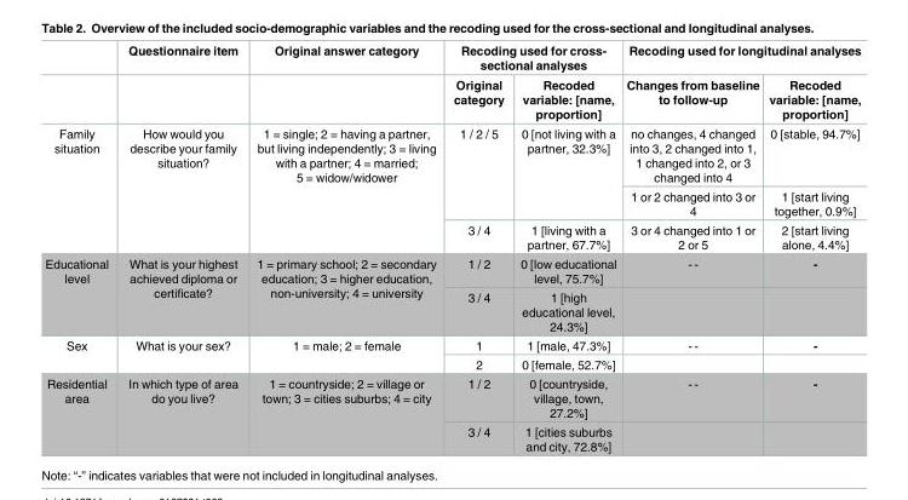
<table><thead><tr><td rowspan="2"></td><td rowspan="2">Questionnaire item</td><td rowspan="2">Original answer category</td><td colspan="2">Recoding used for cross- sectional analyses</td><td colspan="2">Recoding used for longitudinal analyses</td></tr><tr><td>Original category</td><td>Recoded variable: [name, proportion]</td><td>Changes from baseline to follow-up</td><td>Recoded variable: [name, proportion]</td></tr></thead><tbody><tr><td rowspan="3">Family situation</td><td rowspan="3">How would you describe your family situation?</td><td rowspan="3">1 = single; 2 = having a partner, but living independently; 3 = living with a partner; 4 = married; 5 = widow/widower</td><td rowspan="2">1 / 2 / 5</td><td rowspan="2">0 [not living with a partner, 32.3%]</td><td>no changes, 4 changed into 3, 2 changed into 1, 1 changed into 2, or 3 changed into 4</td><td>0 [stable, 94.7%]</td></tr><tr><td>1 or 2 changed into 3 or 4</td><td>1 [start living together, 0.9%]</td></tr><tr><td>3 / 4</td><td>1 [living with a partner, 67.7%]</td><td>3 or 4 changed into 1 or 2 or 5</td><td>2 [start living alone, 4.4%]</td></tr><tr><td rowspan="2">Educational level</td><td rowspan="2">What is your highest achieved diploma or certificate?</td><td rowspan="2">1 = primary school; 2 = secondary education; 3 = higher education, non-university; 4 = university</td><td>1 / 2</td><td>0 [low educational level, 75.7%]</td><td>- -</td><td>-</td></tr><tr><td>3 / 4</td><td>1 [high educational level, 24.3%]</td><td></td><td></td></tr><tr><td rowspan="2">Sex</td><td rowspan="2">What is your sex?</td><td rowspan="2">1 = male; 2 = female</td><td>1</td><td>1 [male, 47.3%]</td><td>- -</td><td>-</td></tr><tr><td>2</td><td>0 [female, 52.7%]</td><td></td><td></td></tr><tr><td rowspan="2">Residential area</td><td rowspan="2">In which type of area do you live?</td><td rowspan="2">1 = countryside; 2 = village or town; 3 = cities suburbs; 4 = city</td><td>1 / 2</td><td>0 [countryside, village, town, 27.2%]</td><td>- -</td><td>-</td></tr><tr><td>3 / 4</td><td>1 [cities suburbs and city, 72.8%]</td><td></td><td></td></tr></tbody></table>